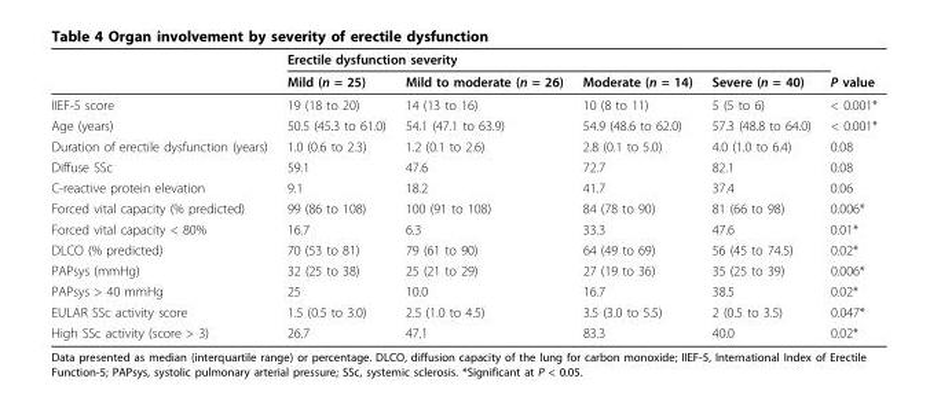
<table><thead><tr><td rowspan="2"></td><td colspan="4">Erectile dysfunction severity</td><td rowspan="2">P value</td></tr><tr><td>Mild (n = 25)</td><td>Mild to moderate (n = 26)</td><td>Moderate (n = 14)</td><td>Severe (n = 40)</td></tr></thead><tbody><tr><td>IIEF-5 score</td><td>19 (18 to 20)</td><td>14 (13 to 16)</td><td>10 (8 to 11)</td><td>5 (5 to 6)</td><td>&lt; 0.001*</td></tr><tr><td>Age (years)</td><td>50.5 (45.3 to 61.0)</td><td>54.1 (47.1 to 63.9)</td><td>54.9 (48.6 to 62.0)</td><td>57.3 (48.8 to 64.0)</td><td>&lt; 0.001*</td></tr><tr><td>Duration of erectile dysfunction (years)</td><td>1.0 (0.6 to 2.3)</td><td>1.2 (0.1 to 2.6)</td><td>2.8 (0.1 to 5.0)</td><td>4.0 (1.0 to 6.4)</td><td>0.08</td></tr><tr><td>Diffuse SSc</td><td>59.1</td><td>47.6</td><td>72.7</td><td>82.1</td><td>0.08</td></tr><tr><td>C-reactive protein elevation</td><td>9.1</td><td>18.2</td><td>41.7</td><td>37.4</td><td>0.06</td></tr><tr><td>Forced vital capacity (% predicted)</td><td>99 (86 to 108)</td><td>100 (91 to 108)</td><td>84 (78 to 90)</td><td>81 (66 to 98)</td><td>0.006*</td></tr><tr><td>Forced vital capacity &lt; 80%</td><td>16.7</td><td>6.3</td><td>33.3</td><td>47.6</td><td>0.01*</td></tr><tr><td>DLCO (% predicted)</td><td>70 (53 to 81)</td><td>79 (61 to 90)</td><td>64 (49 to 69)</td><td>56 (45 to 74.5)</td><td>0.02*</td></tr><tr><td>PAPsys (mmHg)</td><td>32 (25 to 38)</td><td>25 (21 to 29)</td><td>27 (19 to 36)</td><td>35 (25 to 39)</td><td>0.006*</td></tr><tr><td>PAPsys &gt; 40 mmHg</td><td>25</td><td>10.0</td><td>16.7</td><td>38.5</td><td>0.02*</td></tr><tr><td>EULAR SSc activity score</td><td>1.5 (0.5 to 3.0)</td><td>2.5 (1.0 to 4.5)</td><td>3.5 (3.0 to 5.5)</td><td>2 (0.5 to 3.5)</td><td>0.047*</td></tr><tr><td>High SSc activity (score &gt; 3)</td><td>26.7</td><td>47.1</td><td>83.3</td><td>40.0</td><td>0.02*</td></tr></tbody></table>